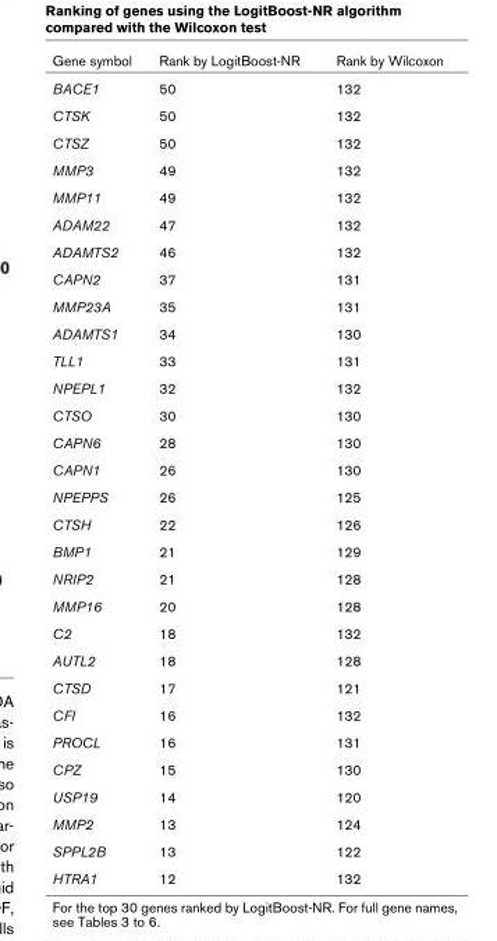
<table><thead><tr><td>Gene symbol</td><td>Rank by LogitBoost-NR</td><td>Rank by Wilcoxon</td></tr></thead><tbody><tr><td>BACE1</td><td>50</td><td>132</td></tr><tr><td>CTSK</td><td>50</td><td>132</td></tr><tr><td>CTSZ</td><td>50</td><td>132</td></tr><tr><td>MMP3</td><td>49</td><td>132</td></tr><tr><td>MMP11</td><td>49</td><td>132</td></tr><tr><td>ADAM22</td><td>47</td><td>132</td></tr><tr><td>ADAMTS2</td><td>46</td><td>132</td></tr><tr><td>CAPN2</td><td>37</td><td>131</td></tr><tr><td>MMP23A</td><td>35</td><td>131</td></tr><tr><td>ADAMTS1</td><td>34</td><td>130</td></tr><tr><td>TLL1</td><td>33</td><td>131</td></tr><tr><td>NPEPL1</td><td>32</td><td>132</td></tr><tr><td>CTSO</td><td>30</td><td>130</td></tr><tr><td>CAPN6</td><td>28</td><td>130</td></tr><tr><td>CAPN1</td><td>26</td><td>130</td></tr><tr><td>NPEPPS</td><td>26</td><td>125</td></tr><tr><td>CTSH</td><td>22</td><td>126</td></tr><tr><td>BMP1</td><td>21</td><td>129</td></tr><tr><td>NRIP2</td><td>21</td><td>128</td></tr><tr><td>MMP16</td><td>20</td><td>128</td></tr><tr><td>C2</td><td>18</td><td>132</td></tr><tr><td>AUTL2</td><td>18</td><td>128</td></tr><tr><td>CTSD</td><td>17</td><td>121</td></tr><tr><td>CFI</td><td>16</td><td>132</td></tr><tr><td>PROCL</td><td>16</td><td>131</td></tr><tr><td>CPZ</td><td>15</td><td>130</td></tr><tr><td>USP19</td><td>14</td><td>120</td></tr><tr><td>MMP2</td><td>13</td><td>124</td></tr><tr><td>SPPL2B</td><td>13</td><td>122</td></tr><tr><td>HTRA1</td><td>12</td><td>132</td></tr></tbody></table>